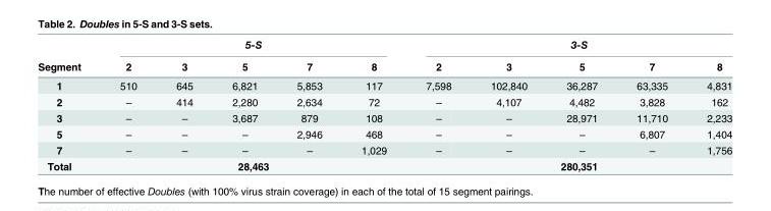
<table><thead><tr><td rowspan="2">Segment</td><td colspan="5">5-S</td><td colspan="5">3-S</td></tr><tr><td>2</td><td>3</td><td>5</td><td>7</td><td>8</td><td>2</td><td>3</td><td>5</td><td>7</td><td>8</td></tr></thead><tbody><tr><td>1</td><td>510</td><td>645</td><td>6,821</td><td>5,853</td><td>117</td><td>7,598</td><td>102,840</td><td>36,287</td><td>63,335</td><td>4,831</td></tr><tr><td>2</td><td>–</td><td>414</td><td>2,280</td><td>2,634</td><td>72</td><td>–</td><td>4,107</td><td>4,482</td><td>3,828</td><td>162</td></tr><tr><td>3</td><td>–</td><td>–</td><td>3,687</td><td>879</td><td>108</td><td>–</td><td>–</td><td>28,971</td><td>11,710</td><td>2,233</td></tr><tr><td>5</td><td>–</td><td>–</td><td>–</td><td>2,946</td><td>468</td><td>–</td><td>–</td><td>–</td><td>6,807</td><td>1,404</td></tr><tr><td>7</td><td>–</td><td>–</td><td>–</td><td>–</td><td>1,029</td><td>–</td><td>–</td><td>–</td><td>–</td><td>1,756</td></tr><tr><td>Total</td><td colspan="5">28,463</td><td colspan="5">280,351</td></tr></tbody></table>